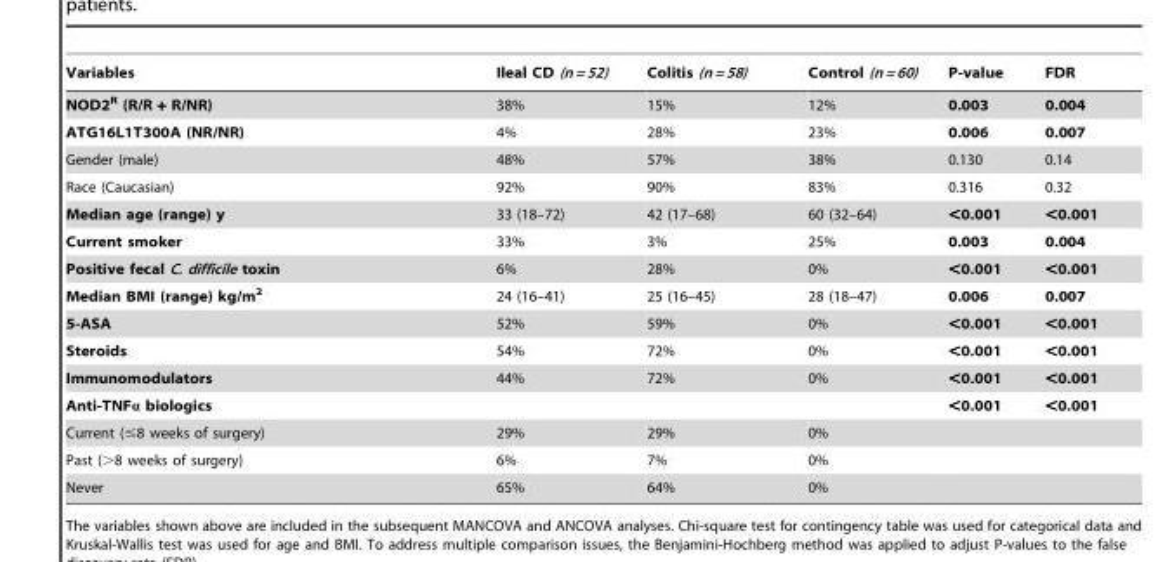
<table><thead><tr><td>Variables</td><td>Ileal CD (n = 52)</td><td>Colitis (n = 58)</td><td>Control (n = 60)</td><td>P-value</td><td>FDR</td></tr></thead><tbody><tr><td>NOD2<sup>R</sup> (R/R + R/NR)</td><td>38%</td><td>15%</td><td>12%</td><td>0.003</td><td>0.004</td></tr><tr><td>ATG16L1T300A (NR/NR)</td><td>4%</td><td>28%</td><td>23%</td><td>0.006</td><td>0.007</td></tr><tr><td>Gender (male)</td><td>48%</td><td>57%</td><td>38%</td><td>0.130</td><td>0.14</td></tr><tr><td>Race (Caucasian)</td><td>92%</td><td>90%</td><td>83%</td><td>0.316</td><td>0.32</td></tr><tr><td>Median age (range) y</td><td>33 (18–72)</td><td>42 (17–68)</td><td>60 (32–64)</td><td>&lt;0.001</td><td>&lt;0.001</td></tr><tr><td>Current smoker</td><td>33%</td><td>3%</td><td>25%</td><td>0.003</td><td>0.004</td></tr><tr><td>Positive fecal C. difficile toxin</td><td>6%</td><td>28%</td><td>0%</td><td>&lt;0.001</td><td>&lt;0.001</td></tr><tr><td>Median BMI (range) kg/m<sup>2</sup></td><td>24 (16–41)</td><td>25 (16–45)</td><td>28 (18–47)</td><td>0.006</td><td>0.007</td></tr><tr><td>5-ASA</td><td>52%</td><td>59%</td><td>0%</td><td>&lt;0.001</td><td>&lt;0.001</td></tr><tr><td>Steroids</td><td>54%</td><td>72%</td><td>0%</td><td>&lt;0.001</td><td>&lt;0.001</td></tr><tr><td>Immunomodulators</td><td>44%</td><td>72%</td><td>0%</td><td>&lt;0.001</td><td>&lt;0.001</td></tr><tr><td>Anti-TNFα biologics</td><td></td><td></td><td></td><td>&lt;0.001</td><td>&lt;0.001</td></tr><tr><td>Current (≤8 weeks of surgery)</td><td>29%</td><td>29%</td><td>0%</td><td></td><td></td></tr><tr><td>Past (&gt;8 weeks of surgery)</td><td>6%</td><td>7%</td><td>0%</td><td></td><td></td></tr><tr><td>Never</td><td>65%</td><td>64%</td><td>0%</td><td></td><td></td></tr></tbody></table>